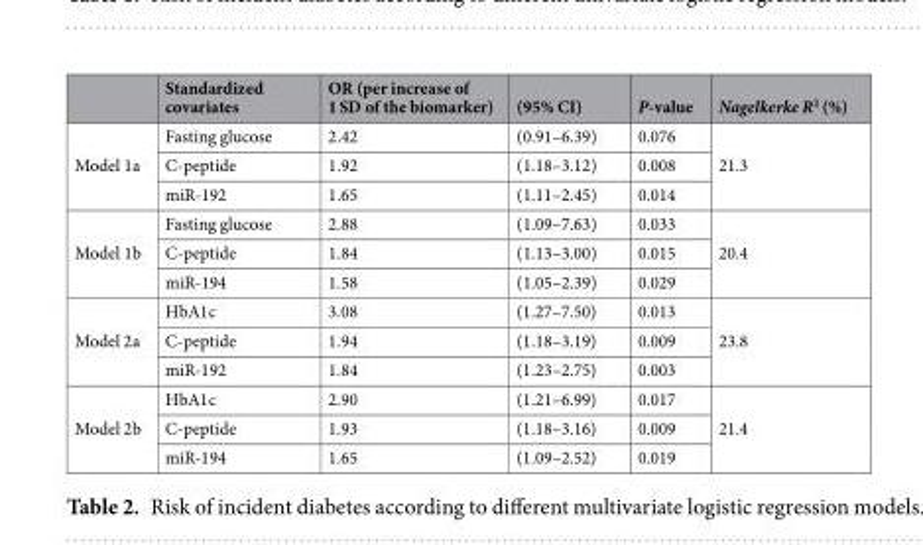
<table><thead><tr><td></td><td>Standardized covariates</td><td>OR (per increase of 1 SD of the biomarker)</td><td>(95% CI)</td><td>P-value</td><td>Nagelkerke R<sup>2</sup> (%)</td></tr></thead><tbody><tr><td rowspan="3">Model 1a</td><td>Fasting glucose</td><td>2.42</td><td>(0.91–6.39)</td><td>0.076</td><td rowspan="3">21.3</td></tr><tr><td>C-peptide</td><td>1.92</td><td>(1.18–3.12)</td><td>0.008</td></tr><tr><td>miR-192</td><td>1.65</td><td>(1.11–2.45)</td><td>0.014</td></tr><tr><td rowspan="3">Model 1b</td><td>Fasting glucose</td><td>2.88</td><td>(1.09–7.63)</td><td>0.033</td><td rowspan="3">20.4</td></tr><tr><td>C-peptide</td><td>1.84</td><td>(1.13–3.00)</td><td>0.015</td></tr><tr><td>miR-194</td><td>1.58</td><td>(1.05–2.39)</td><td>0.029</td></tr><tr><td rowspan="3">Model 2a</td><td>HbA1c</td><td>3.08</td><td>(1.27–7.50)</td><td>0.013</td><td rowspan="3">23.8</td></tr><tr><td>C-peptide</td><td>1.94</td><td>(1.18–3.19)</td><td>0.009</td></tr><tr><td>miR-192</td><td>1.84</td><td>(1.23–2.75)</td><td>0.003</td></tr><tr><td rowspan="3">Model 2b</td><td>HbA1c</td><td>2.90</td><td>(1.21–6.99)</td><td>0.017</td><td rowspan="3">21.4</td></tr><tr><td>C-peptide</td><td>1.93</td><td>(1.18–3.16)</td><td>0.009</td></tr><tr><td>miR-194</td><td>1.65</td><td>(1.09–2.52)</td><td>0.019</td></tr></tbody></table>